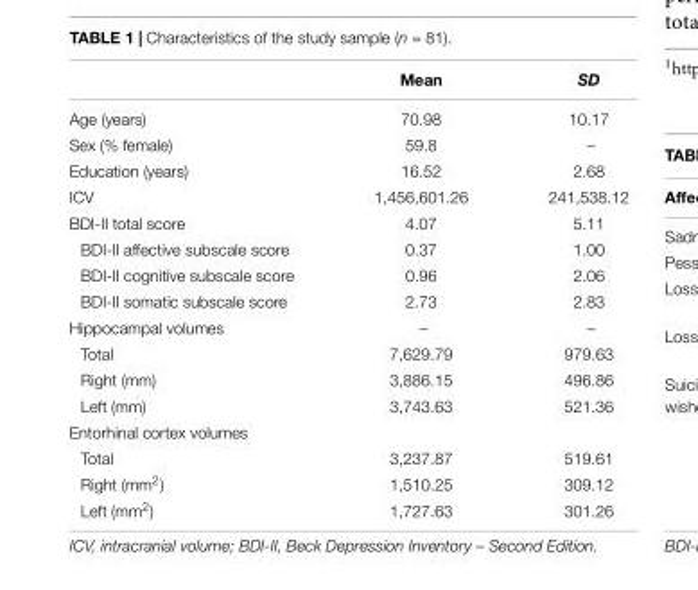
<table><thead><tr><td></td><td>Mean</td><td>SD</td></tr></thead><tbody><tr><td>Age (years)</td><td>70.98</td><td>10.17</td></tr><tr><td>Sex (% female)</td><td>59.8</td><td>–</td></tr><tr><td>Education (years)</td><td>16.52</td><td>2.68</td></tr><tr><td>ICV</td><td>1,456,601.26</td><td>241,538.12</td></tr><tr><td>BDI-II total score</td><td>4.07</td><td>5.11</td></tr><tr><td>BDI-II affective subscale score</td><td>0.37</td><td>1.00</td></tr><tr><td>BDI-II cognitive subscale score</td><td>0.96</td><td>2.06</td></tr><tr><td>BDI-II somatic subscale score</td><td>2.73</td><td>2.83</td></tr><tr><td>Hippocampal volumes</td><td>–</td><td>–</td></tr><tr><td>Total</td><td>7,629.79</td><td>979.63</td></tr><tr><td>Right (mm)</td><td>3,886.15</td><td>496.86</td></tr><tr><td>Left (mm)</td><td>3,743.63</td><td>521.36</td></tr><tr><td colspan="3">Entorhinal cortex volumes</td></tr><tr><td>Total</td><td>3,237.87</td><td>519.61</td></tr><tr><td>Right (mm<sup>2</sup>)</td><td>1,510.25</td><td>309.12</td></tr><tr><td>Left (mm<sup>2</sup>)</td><td>1,727.63</td><td>301.26</td></tr></tbody></table>